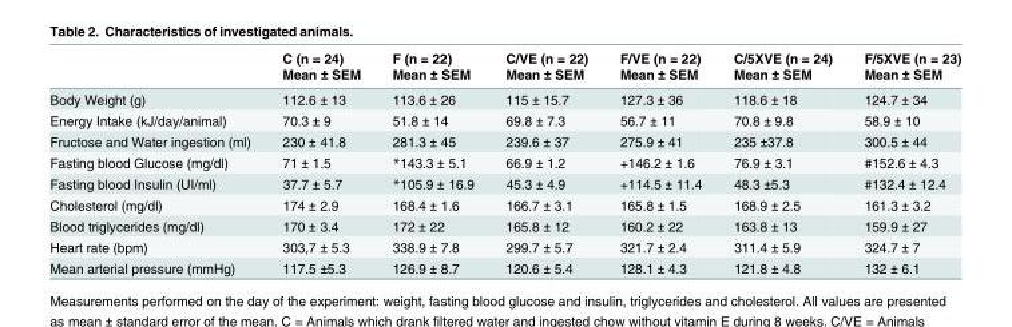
<table><thead><tr><td rowspan="2"></td><td rowspan="2">C (n = 24) Mean ± SEM</td><td rowspan="2">F (n = 22) Mean ± SEM</td><td rowspan="2">C/VE (n = 22) Mean ± SEM</td><td rowspan="2">F/VE (n = 22) Mean ± SEM</td><td rowspan="2">C/5XVE (n = 24) Mean ± SEM</td><td rowspan="2">F/5XVE (n = 23) Mean ± SEM</td></tr><tr></tr></thead><tbody><tr><td>Body Weight (g)</td><td>112.6 ± 13</td><td>113.6 ± 26</td><td>115 ± 15.7</td><td>127.3 ± 36</td><td>118.6 ± 18</td><td>124.7 ± 34</td></tr><tr><td>Energy Intake (kJ/day/animal)</td><td>70.3 ± 9</td><td>51.8 ± 14</td><td>69.8 ± 7.3</td><td>56.7 ± 11</td><td>70.8 ± 9.8</td><td>58.9 ± 10</td></tr><tr><td>Fructose and Water ingestion (ml)</td><td>230 ± 41.8</td><td>281.3 ± 45</td><td>239.6 ± 37</td><td>275.9 ± 41</td><td>235 ±37.8</td><td>300.5 ± 44</td></tr><tr><td>Fasting blood Glucose (mg/dl)</td><td>71 ± 1.5</td><td>*143.3 ± 5.1</td><td>66.9 ± 1.2</td><td>+146.2 ± 1.6</td><td>76.9 ± 3.1</td><td>#152.6 ± 4.3</td></tr><tr><td>Fasting blood Insulin (UI/ml)</td><td>37.7 ± 5.7</td><td>*105.9 ± 16.9</td><td>45.3 ± 4.9</td><td>+114.5 ± 11.4</td><td>48.3 ±5.3</td><td>#132.4 ± 12.4</td></tr><tr><td>Cholesterol (mg/dl)</td><td>174 ± 2.9</td><td>168.4 ± 1.6</td><td>166.7 ± 3.1</td><td>165.8 ± 1.5</td><td>168.9 ± 2.5</td><td>161.3 ± 3.2</td></tr><tr><td>Blood triglycerides (mg/dl)</td><td>170 ± 3.4</td><td>172 ± 22</td><td>165.8 ± 12</td><td>160.2 ± 22</td><td>163.8 ± 13</td><td>159.9 ± 27</td></tr><tr><td>Heart rate (bpm)</td><td>303,7 ± 5.3</td><td>338.9 ± 7.8</td><td>299.7 ± 5.7</td><td>321.7 ± 2.4</td><td>311.4 ± 5.9</td><td>324.7 ± 7</td></tr><tr><td>Mean arterial pressure (mmHg)</td><td>117.5 ±5.3</td><td>126.9 ± 8.7</td><td>120.6 ± 5.4</td><td>128.1 ± 4.3</td><td>121.8 ± 4.8</td><td>132 ± 6.1</td></tr></tbody></table>